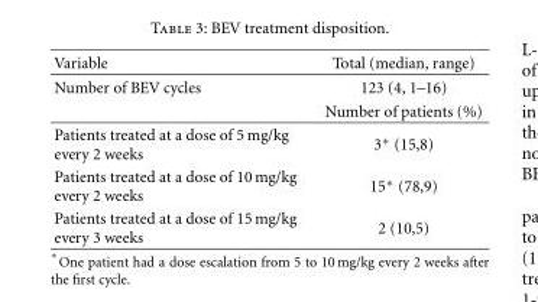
<table><thead><tr><td>Variable</td><td>Total (median, range)</td></tr></thead><tbody><tr><td rowspan="2">Number of BEV cycles</td><td>123 (4, 1–16)</td></tr><tr><td>Number of patients (%)</td></tr><tr><td>Patients treated at a dose of 5 mg/kg every 2 weeks</td><td>3∗ (15,8)</td></tr><tr><td>Patients treated at a dose of 10 mg/kg every 2 weeks</td><td>15∗ (78,9)</td></tr><tr><td>Patients treated at a dose of 15 mg/kg every 3 weeks</td><td>2 (10,5)</td></tr></tbody></table>